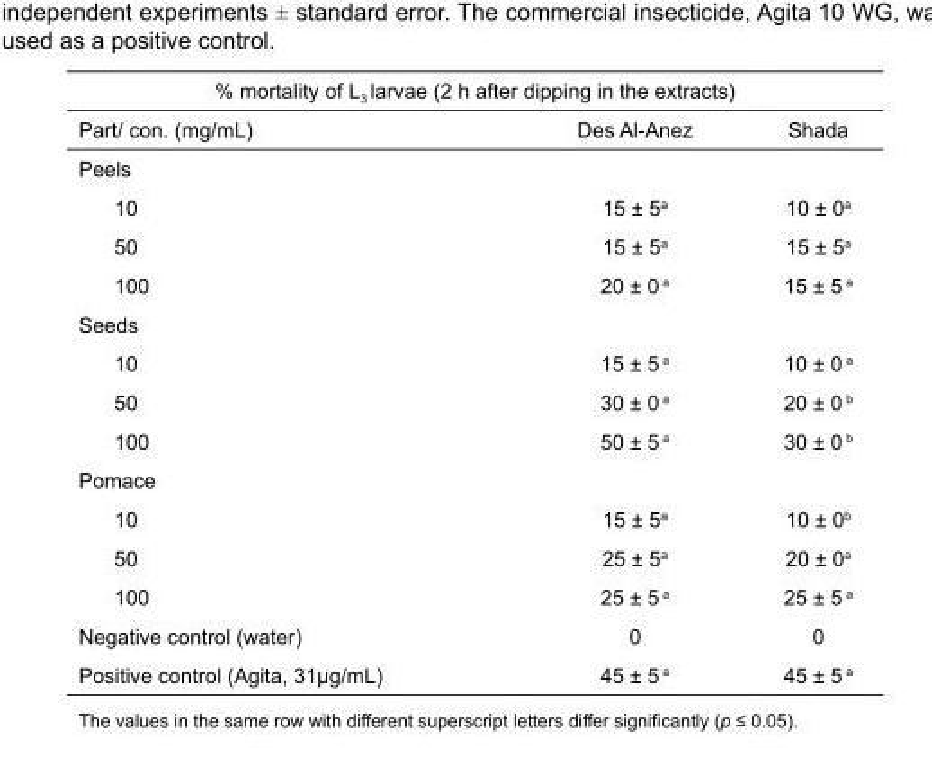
<table><thead><tr><td colspan="3">% mortality of L<sub>3</sub> larvae (2 h after dipping in the extracts)</td></tr><tr><td>Part/ con. (mg/mL)</td><td>Des Al-Anez</td><td>Shada</td></tr></thead><tbody><tr><td colspan="3">Peels</td></tr><tr><td>10</td><td>15 ± 5<sup>a</sup></td><td>10 ± 0<sup>a</sup></td></tr><tr><td>50</td><td>15 ± 5<sup>a</sup></td><td>15 ± 5<sup>a</sup></td></tr><tr><td>100</td><td>20 ± 0 <sup>a</sup></td><td>15 ± 5 <sup>a</sup></td></tr><tr><td colspan="3">Seeds</td></tr><tr><td>10</td><td>15 ± 5 <sup>a</sup></td><td>10 ± 0 <sup>a</sup></td></tr><tr><td>50</td><td>30 ± 0 <sup>a</sup></td><td>20 ± 0 <sup>b</sup></td></tr><tr><td>100</td><td>50 ± 5 <sup>a</sup></td><td>30 ± 0 <sup>b</sup></td></tr><tr><td colspan="3">Pomace</td></tr><tr><td>10</td><td>15 ± 5<sup>a</sup></td><td>10 ± 0<sup>b</sup></td></tr><tr><td>50</td><td>25 ± 5<sup>a</sup></td><td>20 ± 0<sup>a</sup></td></tr><tr><td>100</td><td>25 ± 5 <sup>a</sup></td><td>25 ± 5 <sup>a</sup></td></tr><tr><td>Negative control (water)</td><td>0</td><td>0</td></tr><tr><td>Positive control (Agita, 31µg/mL)</td><td>45 ± 5 <sup>a</sup></td><td>45 ± 5 <sup>a</sup></td></tr></tbody></table>